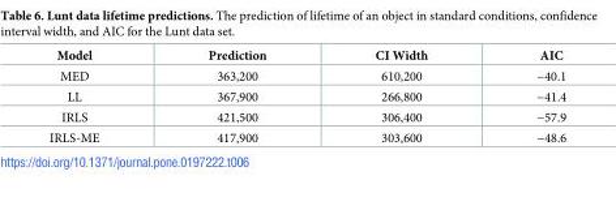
<table><thead><tr><td>Model</td><td>Prediction</td><td>CI Width</td><td>AIC</td></tr></thead><tbody><tr><td>MED</td><td>363,200</td><td>610,200</td><td>−40.1</td></tr><tr><td>LL</td><td>367,900</td><td>266,800</td><td>−41.4</td></tr><tr><td>IRLS</td><td>421,500</td><td>306,400</td><td>−57.9</td></tr><tr><td>IRLS-ME</td><td>417,900</td><td>303,600</td><td>−48.6</td></tr></tbody></table>